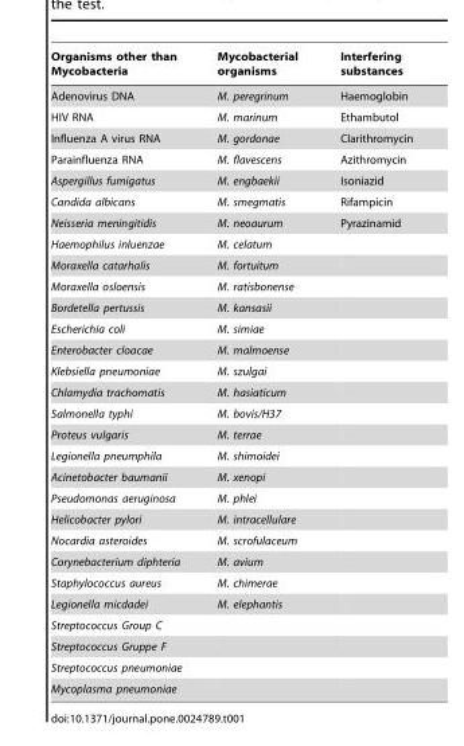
<table><thead><tr><td>Organisms other than Mycobacteria</td><td>Mycobacterial organisms</td><td>Interfering substances</td></tr></thead><tbody><tr><td>Adenovirus DNA</td><td>M. peregrinum</td><td>Haemoglobin</td></tr><tr><td>HIV RNA</td><td>M. marinum</td><td>Ethambutol</td></tr><tr><td>Influenza A virus RNA</td><td>M. gordonae</td><td>Clarithromycin</td></tr><tr><td>Parainfluenza RNA</td><td>M. flavescens</td><td>Azithromycin</td></tr><tr><td>Aspergillus fumigatus</td><td>M. engbaekii</td><td>Isoniazid</td></tr><tr><td>Candida albicans</td><td>M. smegmatis</td><td>Rifampicin</td></tr><tr><td>Neisseria meningitidis</td><td>M. neoaurum</td><td>Pyrazinamid</td></tr><tr><td>Haemophilus inluenzae</td><td>M. celatum</td><td></td></tr><tr><td>Moraxella catarhalis</td><td>M. fortuitum</td><td></td></tr><tr><td>Moraxella osloensis</td><td>M. ratisbonense</td><td></td></tr><tr><td>Bordetella pertussis</td><td>M. kansasii</td><td></td></tr><tr><td>Escherichia coli</td><td>M. simiae</td><td></td></tr><tr><td>Enterobacter cloacae</td><td>M. malmoense</td><td></td></tr><tr><td>Klebsiella pneumoniae</td><td>M. szulgai</td><td></td></tr><tr><td>Chlamydia trachomatis</td><td>M. hasiaticum</td><td></td></tr><tr><td>Salmonella typhi</td><td>M. bovis/H37</td><td></td></tr><tr><td>Proteus vulgaris</td><td>M. terrae</td><td></td></tr><tr><td>Legionella pneumphila</td><td>M. shimoidei</td><td></td></tr><tr><td>Acinetobacter baumanii</td><td>M. xenopi</td><td></td></tr><tr><td>Pseudomonas aeruginosa</td><td>M. phlei</td><td></td></tr><tr><td>Helicobacter pylori</td><td>M. intracellulare</td><td></td></tr><tr><td>Nocardia asteroides</td><td>M. scrofulaceum</td><td></td></tr><tr><td>Corynebacterium diphteria</td><td>M. avium</td><td></td></tr><tr><td>Staphylococcus aureus</td><td>M. chimerae</td><td></td></tr><tr><td>Legionella micdadei</td><td>M. elephantis</td><td></td></tr><tr><td colspan="3">Streptococcus Group C</td></tr><tr><td colspan="3">Streptococcus Gruppe F</td></tr><tr><td colspan="3">Streptococcus pneumoniae</td></tr><tr><td>Mycoplasma pneumoniae</td><td></td><td></td></tr></tbody></table>